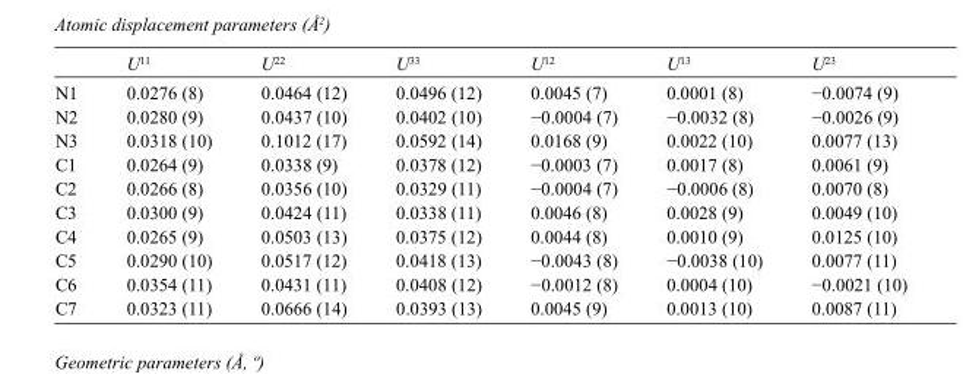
<table><thead><tr><td></td><td>U<sup>11</sup></td><td>U<sup>22</sup></td><td>U<sup>33</sup></td><td>U<sup>12</sup></td><td>U<sup>13</sup></td><td>U<sup>23</sup></td></tr></thead><tbody><tr><td>N1</td><td>0.0276 (8)</td><td>0.0464 (12)</td><td>0.0496 (12)</td><td>0.0045 (7)</td><td>0.0001 (8)</td><td>−0.0074 (9)</td></tr><tr><td>N2</td><td>0.0280 (9)</td><td>0.0437 (10)</td><td>0.0402 (10)</td><td>−0.0004 (7)</td><td>−0.0032 (8)</td><td>−0.0026 (9)</td></tr><tr><td>N3</td><td>0.0318 (10)</td><td>0.1012 (17)</td><td>0.0592 (14)</td><td>0.0168 (9)</td><td>0.0022 (10)</td><td>0.0077 (13)</td></tr><tr><td>C1</td><td>0.0264 (9)</td><td>0.0338 (9)</td><td>0.0378 (12)</td><td>−0.0003 (7)</td><td>0.0017 (8)</td><td>0.0061 (9)</td></tr><tr><td>C2</td><td>0.0266 (8)</td><td>0.0356 (10)</td><td>0.0329 (11)</td><td>−0.0004 (7)</td><td>−0.0006 (8)</td><td>0.0070 (8)</td></tr><tr><td>C3</td><td>0.0300 (9)</td><td>0.0424 (11)</td><td>0.0338 (11)</td><td>0.0046 (8)</td><td>0.0028 (9)</td><td>0.0049 (10)</td></tr><tr><td>C4</td><td>0.0265 (9)</td><td>0.0503 (13)</td><td>0.0375 (12)</td><td>0.0044 (8)</td><td>0.0010 (9)</td><td>0.0125 (10)</td></tr><tr><td>C5</td><td>0.0290 (10)</td><td>0.0517 (12)</td><td>0.0418 (13)</td><td>−0.0043 (8)</td><td>−0.0038 (10)</td><td>0.0077 (11)</td></tr><tr><td>C6</td><td>0.0354 (11)</td><td>0.0431 (11)</td><td>0.0408 (12)</td><td>−0.0012 (8)</td><td>0.0004 (10)</td><td>−0.0021 (10)</td></tr><tr><td>C7</td><td>0.0323 (11)</td><td>0.0666 (14)</td><td>0.0393 (13)</td><td>0.0045 (9)</td><td>0.0013 (10)</td><td>0.0087 (11)</td></tr></tbody></table>